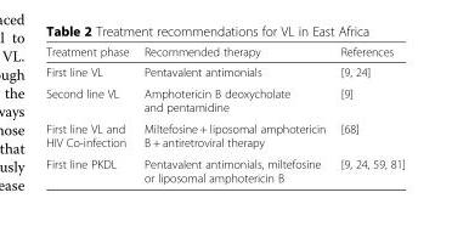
<table><thead><tr><td>Treatment phase</td><td>Recommended therapy</td><td>References</td></tr></thead><tbody><tr><td>First line VL</td><td>Pentavalent antimonials</td><td>[9, 24]</td></tr><tr><td>Second line VL</td><td>Amphotericin B deoxycholate and pentamidine</td><td>[9]</td></tr><tr><td>First line VL and HIV Co-infection</td><td>Miltefosine + liposomal amphotericin B + antiretroviral therapy</td><td>[68]</td></tr><tr><td>First line PKDL</td><td>Pentavalent antimonials, miltefosine or liposomal amphotericin B</td><td>[9, 24, 59, 81]</td></tr></tbody></table>